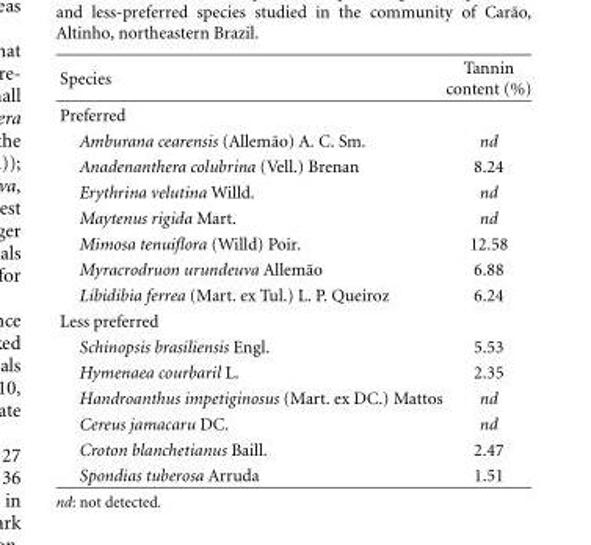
<table><thead><tr><td>Species</td><td>Tannin content (%)</td></tr></thead><tbody><tr><td colspan="2">Preferred</td></tr><tr><td>Amburana cearensis (Allem˜ao) A. C. Sm.</td><td>nd</td></tr><tr><td>Anadenanthera colubrina (Vell.) Brenan</td><td>8.24</td></tr><tr><td>Erythrina velutina Willd.</td><td>nd</td></tr><tr><td>Maytenus rigida Mart.</td><td>nd</td></tr><tr><td>Mimosa tenuiflora (Willd) Poir.</td><td>12.58</td></tr><tr><td>Myracrodruon urundeuva Allem˜ao</td><td>6.88</td></tr><tr><td>Libidibia ferrea (Mart. ex Tul.) L. P. Queiroz</td><td>6.24</td></tr><tr><td colspan="2">Less preferred</td></tr><tr><td>Schinopsis brasiliensis Engl.</td><td>5.53</td></tr><tr><td>Hymenaea courbaril L.</td><td>2.35</td></tr><tr><td>Handroanthus impetiginosus (Mart. ex DC.) Mattos</td><td>nd</td></tr><tr><td>Cereus jamacaru DC.</td><td>nd</td></tr><tr><td>Croton blanchetianus Baill.</td><td>2.47</td></tr><tr><td>Spondias tuberosa Arruda</td><td>1.51</td></tr></tbody></table>